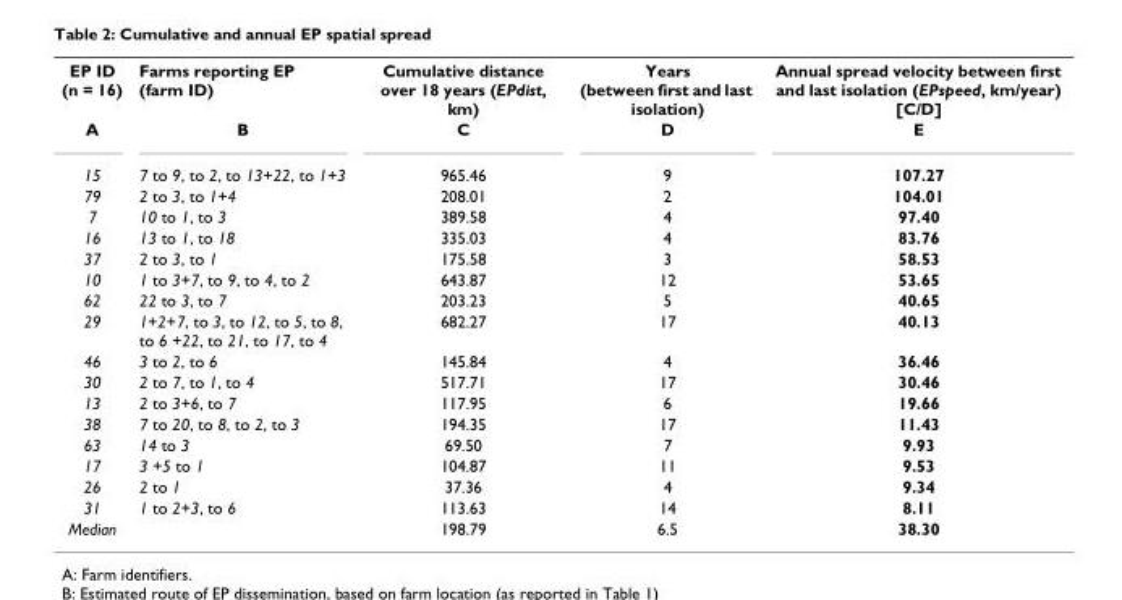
<table><tbody><tr><td>EP ID (n = 16)</td><td>Farms reporting EP (farm ID)</td><td>Cumulative distance over 18 years (EPdist, km)</td><td>Years (between first and last isolation)</td><td>Annual spread velocity between first and last isolation (EPspeed, km/year) [C/D]</td></tr><tr><td>A</td><td>B</td><td>C</td><td>D</td><td>E</td></tr><tr><td>15</td><td>7 to 9, to 2, to 13+22, to 1+3</td><td>965.46</td><td>9</td><td>107.27</td></tr><tr><td>79</td><td>2 to 3, to 1+4</td><td>208.01</td><td>2</td><td>104.01</td></tr><tr><td>7</td><td>10 to 1, to 3</td><td>389.58</td><td>4</td><td>97.40</td></tr><tr><td>16</td><td>13 to 1, to 18</td><td>335.03</td><td>4</td><td>83.76</td></tr><tr><td>37</td><td>2 to 3, to 1</td><td>175.58</td><td>3</td><td>58.53</td></tr><tr><td>10</td><td>1 to 3+7, to 9, to 4, to 2</td><td>643.87</td><td>12</td><td>53.65</td></tr><tr><td>62</td><td>22 to 3, to 7</td><td>203.23</td><td>5</td><td>40.65</td></tr><tr><td>29</td><td>1+2+7, to 3, to 12, to 5, to 8, to 6 +22, to 21, to 17, to 4</td><td>682.27</td><td>17</td><td>40.13</td></tr><tr><td>46</td><td>3 to 2, to 6</td><td>145.84</td><td>4</td><td>36.46</td></tr><tr><td>30</td><td>2 to 7, to 1, to 4</td><td>517.71</td><td>17</td><td>30.46</td></tr><tr><td>13</td><td>2 to 3+6, to 7</td><td>117.95</td><td>6</td><td>19.66</td></tr><tr><td>38</td><td>7 to 20, to 8, to 2, to 3</td><td>194.35</td><td>17</td><td>11.43</td></tr><tr><td>63</td><td>14 to 3</td><td>69.50</td><td>7</td><td>9.93</td></tr><tr><td>17</td><td>3 +5 to 1</td><td>104.87</td><td>11</td><td>9.53</td></tr><tr><td>26</td><td>2 to 1</td><td>37.36</td><td>4</td><td>9.34</td></tr><tr><td>31</td><td>1 to 2+3, to 6</td><td>113.63</td><td>14</td><td>8.11</td></tr><tr><td>Median</td><td></td><td>198.79</td><td>6.5</td><td>38.30</td></tr></tbody></table>